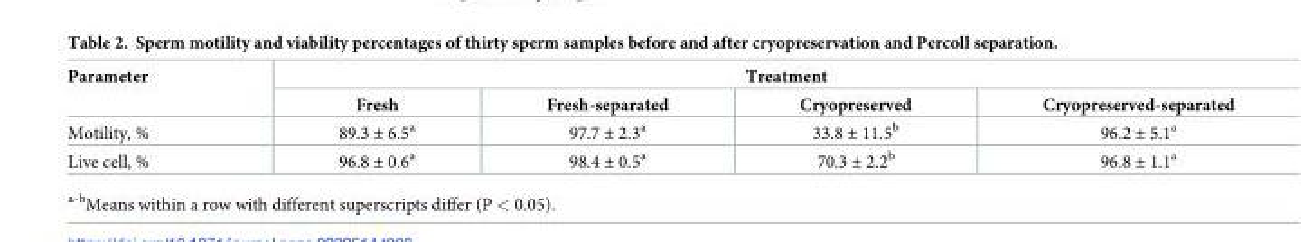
<table><thead><tr><td rowspan="2">Parameter</td><td colspan="4">Treatment</td></tr><tr><td>Fresh</td><td>Fresh-separated</td><td>Cryopreserved</td><td>Cryopreserved-separated</td></tr></thead><tbody><tr><td>Motility, %</td><td>89.3 ± 6.5<sup>a</sup></td><td>97.7 ± 2.3<sup>a</sup></td><td>33.8 ± 11.5<sup>b</sup></td><td>96.2 ± 5.1<sup>a</sup></td></tr><tr><td>Live cell, %</td><td>96.8 ± 0.6<sup>a</sup></td><td>98.4 ± 0.5<sup>a</sup></td><td>70.3 ± 2.2<sup>b</sup></td><td>96.8 ± 1.1<sup>a</sup></td></tr></tbody></table>